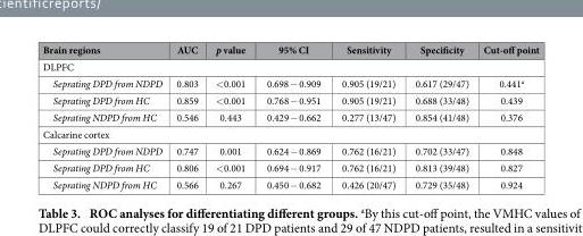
<table><thead><tr><td>Brain regions</td><td>AUC</td><td>p value</td><td>95% CI</td><td>Sensitivity</td><td>Specificity</td><td>Cut-off point</td></tr></thead><tbody><tr><td colspan="7">DLPFC</td></tr><tr><td>Seprating DPD from NDPD</td><td>0.803</td><td>&lt; 0.001</td><td>0.698 − 0.909</td><td>0.905 (19/21)</td><td>0.617 (29/47)</td><td>0.441<sup>a</sup></td></tr><tr><td>Seprating DPD from HC</td><td>0.859</td><td>&lt; 0.001</td><td>0.768 − 0.951</td><td>0.905 (19/21)</td><td>0.688 (33/48)</td><td>0.439</td></tr><tr><td>Seprating NDPD from HC</td><td>0.546</td><td>0.443</td><td>0.429 − 0.662</td><td>0.277 (13/47)</td><td>0.854 (41/48)</td><td>0.376</td></tr><tr><td colspan="7">Calcarine cortex</td></tr><tr><td>Seprating DPD from NDPD</td><td>0.747</td><td>0.001</td><td>0.624 − 0.869</td><td>0.762 (16/21)</td><td>0.702 (33/47)</td><td>0.848</td></tr><tr><td>Seprating DPD from HC</td><td>0.806</td><td>&lt; 0.001</td><td>0.694 − 0.917</td><td>0.762 (16/21)</td><td>0.813 (39/48)</td><td>0.827</td></tr><tr><td>Seprating NDPD from HC</td><td>0.566</td><td>0.267</td><td>0.450 − 0.682</td><td>0.426 (20/47)</td><td>0.729 (35/48)</td><td>0.924</td></tr></tbody></table>